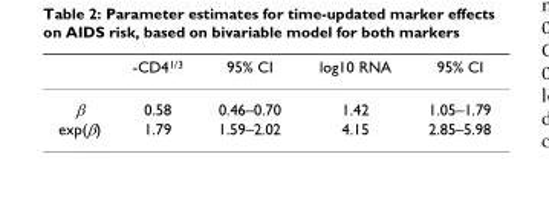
<table><thead><tr><td></td><td>-CD4<sup>1/3</sup></td><td>95% CI</td><td>log10 RNA</td><td>95% CI</td></tr></thead><tbody><tr><td>β</td><td>0.58</td><td>0.46–0.70</td><td>1.42</td><td>1.05–1.79</td></tr><tr><td>exp(β)</td><td>1.79</td><td>1.59–2.02</td><td>4.15</td><td>2.85–5.98</td></tr></tbody></table>